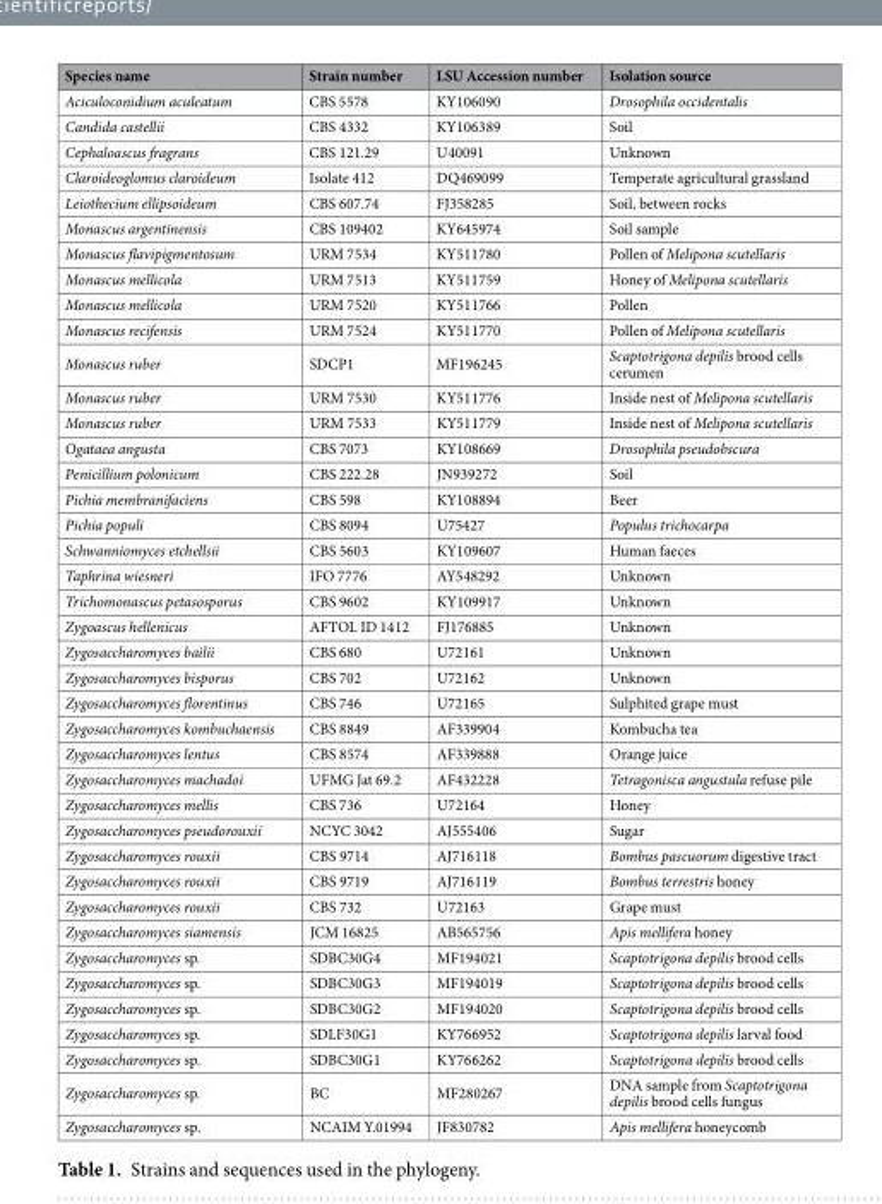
<table><thead><tr><td>Species name</td><td>Strain number</td><td>LSU Accession number</td><td>Isolation source</td></tr></thead><tbody><tr><td>Aciculoconidium aculeatum</td><td>CBS 5578</td><td>KY106090</td><td>Drosophila occidentalis</td></tr><tr><td>Candida castellii</td><td>CBS 4332</td><td>KY106389</td><td>Soil</td></tr><tr><td>Cephaloascus fragrans</td><td>CBS 121.29</td><td>U40091</td><td>Unknown</td></tr><tr><td>Claroideoglomus claroideum</td><td>Isolate 412</td><td>DQ469099</td><td>Temperate agricultural grassland</td></tr><tr><td>Leiothecium ellipsoideum</td><td>CBS 607.74</td><td>FJ358285</td><td>Soil, between rocks</td></tr><tr><td>Monascus argentinensis</td><td>CBS 109402</td><td>KY645974</td><td>Soil sample</td></tr><tr><td>Monascus flavipigmentosum</td><td>URM 7534</td><td>KY511780</td><td>Pollen of Melipona scutellaris</td></tr><tr><td>Monascus mellicola</td><td>URM 7513</td><td>KY511759</td><td>Honey of Melipona scutellaris</td></tr><tr><td>Monascus mellicola</td><td>URM 7520</td><td>KY511766</td><td>Pollen</td></tr><tr><td>Monascus recifensis</td><td>URM 7524</td><td>KY511770</td><td>Pollen of Melipona scutellaris</td></tr><tr><td>Monascus ruber</td><td>SDCP1</td><td>MF196245</td><td>Scaptotrigona depilis brood cells cerumen</td></tr><tr><td>Monascus ruber</td><td>URM 7530</td><td>KY511776</td><td>Inside nest of Melipona scutellaris</td></tr><tr><td>Monascus ruber</td><td>URM 7533</td><td>KY511779</td><td>Inside nest of Melipona scutellaris</td></tr><tr><td>Ogataea angusta</td><td>CBS 7073</td><td>KY108669</td><td>Drosophila pseudobscura</td></tr><tr><td>Penicillium polonicum</td><td>CBS 222.28</td><td>JN939272</td><td>Soil</td></tr><tr><td>Pichia membranifaciens</td><td>CBS 598</td><td>KY108894</td><td>Beer</td></tr><tr><td>Pichia populi</td><td>CBS 8094</td><td>U75427</td><td>Populus trichocarpa</td></tr><tr><td>Schwanniomyces etchellsii</td><td>CBS 5603</td><td>KY109607</td><td>Human faeces</td></tr><tr><td>Taphrina wiesneri</td><td>IFO 7776</td><td>AY548292</td><td>Unknown</td></tr><tr><td>Trichomonascus petasosporus</td><td>CBS 9602</td><td>KY109917</td><td>Unknown</td></tr><tr><td>Zygoascus hellenicus</td><td>AFTOL ID 1412</td><td>FJ176885</td><td>Unknown</td></tr><tr><td>Zygosaccharomyces bailii</td><td>CBS 680</td><td>U72161</td><td>Unknown</td></tr><tr><td>Zygosaccharomyces bisporus</td><td>CBS 702</td><td>U72162</td><td>Unknown</td></tr><tr><td>Zygosaccharomyces florentinus</td><td>CBS 746</td><td>U72165</td><td>Sulphited grape must</td></tr><tr><td>Zygosaccharomyces kombuchaensis</td><td>CBS 8849</td><td>AF339904</td><td>Kombucha tea</td></tr><tr><td>Zygosaccharomyces lentus</td><td>CBS 8574</td><td>AF339888</td><td>Orange juice</td></tr><tr><td>Zygosaccharomyces machadoi</td><td>UFMG Jat 69.2</td><td>AF432228</td><td>Tetragonisca angustula refuse pile</td></tr><tr><td>Zygosaccharomyces mellis</td><td>CBS 736</td><td>U72164</td><td>Honey</td></tr><tr><td>Zygosaccharomyces pseudorouxii</td><td>NCYC 3042</td><td>AJ555406</td><td>Sugar</td></tr><tr><td>Zygosaccharomyces rouxii</td><td>CBS 9714</td><td>AJ716118</td><td>Bombus pascuorum digestive tract</td></tr><tr><td>Zygosaccharomyces rouxii</td><td>CBS 9719</td><td>AJ716119</td><td>Bombus terrestris honey</td></tr><tr><td>Zygosaccharomyces rouxii</td><td>CBS 732</td><td>U72163</td><td>Grape must</td></tr><tr><td>Zygosaccharomyces siamensis</td><td>JCM 16825</td><td>AB565756</td><td>Apis mellifera honey</td></tr><tr><td>Zygosaccharomyces sp.</td><td>SDBC30G4</td><td>MF194021</td><td>Scaptotrigona depilis brood cells</td></tr><tr><td>Zygosaccharomyces sp.</td><td>SDBC30G3</td><td>MF194019</td><td>Scaptotrigona depilis brood cells</td></tr><tr><td>Zygosaccharomyces sp.</td><td>SDBC30G2</td><td>MF194020</td><td>Scaptotrigona depilis brood cells</td></tr><tr><td>Zygosaccharomyces sp.</td><td>SDLF30G1</td><td>KY766952</td><td>Scaptotrigona depilis larval food</td></tr><tr><td>Zygosaccharomyces sp.</td><td>SDBC30G1</td><td>KY766262</td><td>Scaptotrigona depilis brood cells</td></tr><tr><td>Zygosaccharomyces sp.</td><td>BC</td><td>MF280267</td><td>DNA sample from Scaptotrigona depilis brood cells fungus</td></tr><tr><td>Zygosaccharomyces sp.</td><td>NCAIM Y.01994</td><td>JF830782</td><td>Apis mellifera honeycomb</td></tr></tbody></table>